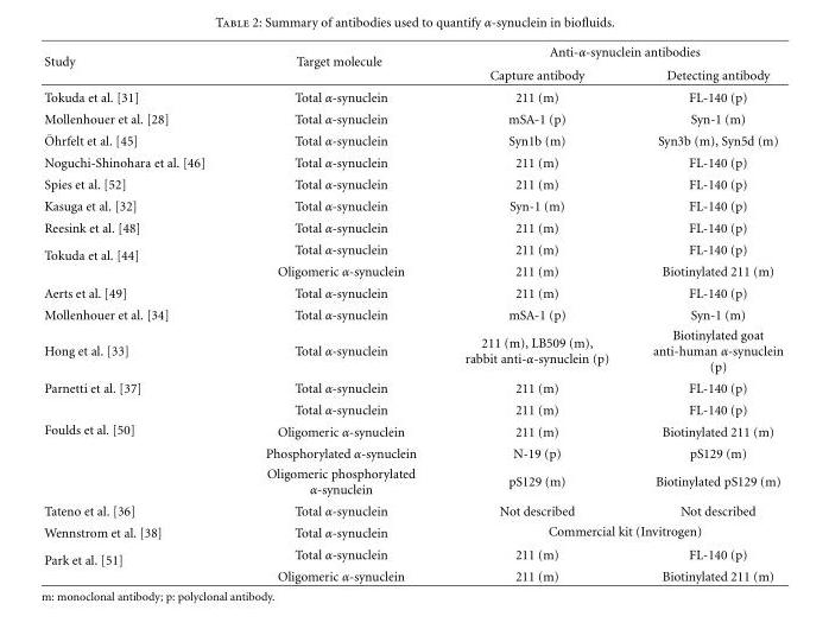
<table><thead><tr><td rowspan="2">Study</td><td rowspan="2">Target molecule</td><td colspan="2">Anti-α-synuclein antibodies</td></tr><tr><td>Capture antibody</td><td>Detecting antibody</td></tr></thead><tbody><tr><td>Tokuda et al. [31]</td><td>Total α-synuclein</td><td>211 (m)</td><td>FL-140 (p)</td></tr><tr><td>Mollenhouer et al. [28]</td><td>Total α-synuclein</td><td>mSA-1 (p)</td><td>Syn-1 (m)</td></tr><tr><td>¨Ohrfelt et al. [45]</td><td>Total α-synuclein</td><td>Syn1b (m)</td><td>Syn3b (m), Syn5d (m)</td></tr><tr><td>Noguchi-Shinohara et al. [46]</td><td>Total α-synuclein</td><td>211 (m)</td><td>FL-140 (p)</td></tr><tr><td>Spies et al. [52]</td><td>Total α-synuclein</td><td>211 (m)</td><td>FL-140 (p)</td></tr><tr><td>Kasuga et al. [32]</td><td>Total α-synuclein</td><td>Syn-1 (m)</td><td>FL-140 (p)</td></tr><tr><td>Reesink et al. [48]</td><td>Total α-synuclein</td><td>211 (m)</td><td>FL-140 (p)</td></tr><tr><td rowspan="2">Tokuda et al. [44]</td><td>Total α-synuclein</td><td>211 (m)</td><td>FL-140 (p)</td></tr><tr><td>Oligomeric α-synuclein</td><td>211 (m)</td><td>Biotinylated 211 (m)</td></tr><tr><td>Aerts et al. [49]</td><td>Total α-synuclein</td><td>211 (m)</td><td>FL-140 (p)</td></tr><tr><td>Mollenhouer et al. [34]</td><td>Total α-synuclein</td><td>mSA-1 (p)</td><td>Syn-1 (m)</td></tr><tr><td>Hong et al. [33]</td><td>Total α-synuclein</td><td>211 (m), LB509 (m), rabbit anti-α-synuclein (p)</td><td>Biotinylated goat anti-human α-synuclein (p)</td></tr><tr><td>Parnetti et al. [37]</td><td>Total α-synuclein</td><td>211 (m)</td><td>FL-140 (p)</td></tr><tr><td rowspan="4">Foulds et al. [50]</td><td>Total α-synuclein</td><td>211 (m)</td><td>FL-140 (p)</td></tr><tr><td>Oligomeric α-synuclein</td><td>211 (m)</td><td>Biotinylated 211 (m)</td></tr><tr><td>Phosphorylated α-synuclein</td><td>N-19 (p)</td><td>pS129 (m)</td></tr><tr><td>Oligomeric phosphorylated α-synuclein</td><td>pS129 (m)</td><td>Biotinylated pS129 (m)</td></tr><tr><td>Tateno et al. [36]</td><td>Total α-synuclein</td><td>Not described</td><td>Not described</td></tr><tr><td>Wennstrom et al. [38]</td><td>Total α-synuclein</td><td colspan="2">Commercial kit (Invitrogen)</td></tr><tr><td rowspan="2">Park et al. [51]</td><td>Total α-synuclein</td><td>211 (m)</td><td>FL-140 (p)</td></tr><tr><td>Oligomeric α-synuclein</td><td>211 (m)</td><td>Biotinylated 211 (m)</td></tr></tbody></table>